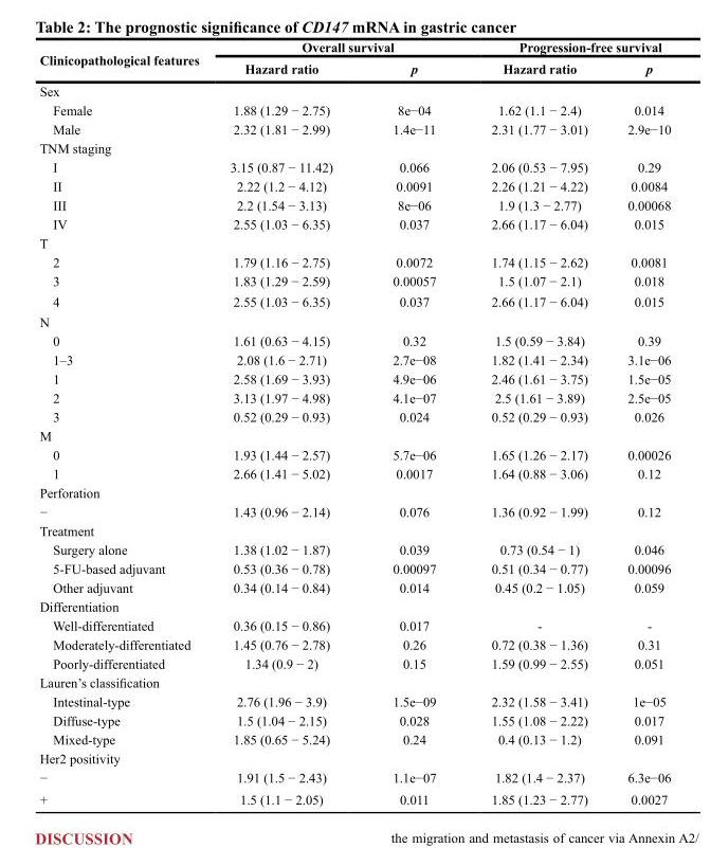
<table><thead><tr><td rowspan="2">Clinicopathological features</td><td colspan="2">Overall survival</td><td colspan="2">Progression-free survival</td></tr><tr><td>Hazard ratio</td><td>p</td><td>Hazard ratio</td><td>p</td></tr></thead><tbody><tr><td colspan="5">Sex</td></tr><tr><td>Female</td><td>1.88 (1.29 − 2.75)</td><td>8e−04</td><td>1.62 (1.1 − 2.4)</td><td>0.014</td></tr><tr><td>Male</td><td>2.32 (1.81 − 2.99)</td><td>1.4e−11</td><td>2.31 (1.77 − 3.01)</td><td>2.9e−10</td></tr><tr><td colspan="5">TNM staging</td></tr><tr><td>I</td><td>3.15 (0.87 − 11.42)</td><td>0.066</td><td>2.06 (0.53 − 7.95)</td><td>0.29</td></tr><tr><td>II</td><td>2.22 (1.2 − 4.12)</td><td>0.0091</td><td>2.26 (1.21 − 4.22)</td><td>0.0084</td></tr><tr><td>III</td><td>2.2 (1.54 − 3.13)</td><td>8e−06</td><td>1.9 (1.3 − 2.77)</td><td>0.00068</td></tr><tr><td>IV</td><td>2.55 (1.03 − 6.35)</td><td>0.037</td><td>2.66 (1.17 − 6.04)</td><td>0.015</td></tr><tr><td colspan="5">T</td></tr><tr><td>2</td><td>1.79 (1.16 − 2.75)</td><td>0.0072</td><td>1.74 (1.15 − 2.62)</td><td>0.0081</td></tr><tr><td>3</td><td>1.83 (1.29 − 2.59)</td><td>0.00057</td><td>1.5 (1.07 − 2.1)</td><td>0.018</td></tr><tr><td>4</td><td>2.55 (1.03 − 6.35)</td><td>0.037</td><td>2.66 (1.17 − 6.04)</td><td>0.015</td></tr><tr><td colspan="5">N</td></tr><tr><td>0</td><td>1.61 (0.63 − 4.15)</td><td>0.32</td><td>1.5 (0.59 − 3.84)</td><td>0.39</td></tr><tr><td>1–3</td><td>2.08 (1.6 − 2.71)</td><td>2.7e−08</td><td>1.82 (1.41 − 2.34)</td><td>3.1e−06</td></tr><tr><td>1</td><td>2.58 (1.69 − 3.93)</td><td>4.9e−06</td><td>2.46 (1.61 − 3.75)</td><td>1.5e−05</td></tr><tr><td>2</td><td>3.13 (1.97 − 4.98)</td><td>4.1e−07</td><td>2.5 (1.61 − 3.89)</td><td>2.5e−05</td></tr><tr><td>3</td><td>0.52 (0.29 − 0.93)</td><td>0.024</td><td>0.52 (0.29 − 0.93)</td><td>0.026</td></tr><tr><td colspan="5">M</td></tr><tr><td>0</td><td>1.93 (1.44 − 2.57)</td><td>5.7e−06</td><td>1.65 (1.26 − 2.17)</td><td>0.00026</td></tr><tr><td>1</td><td>2.66 (1.41 − 5.02)</td><td>0.0017</td><td>1.64 (0.88 − 3.06)</td><td>0.12</td></tr><tr><td colspan="5">Perforation</td></tr><tr><td>−</td><td>1.43 (0.96 − 2.14)</td><td>0.076</td><td>1.36 (0.92 − 1.99)</td><td>0.12</td></tr><tr><td colspan="5">Treatment</td></tr><tr><td>Surgery alone</td><td>1.38 (1.02 − 1.87)</td><td>0.039</td><td>0.73 (0.54 − 1)</td><td>0.046</td></tr><tr><td>5-FU-based adjuvant</td><td>0.53 (0.36 − 0.78)</td><td>0.00097</td><td>0.51 (0.34 − 0.77)</td><td>0.00096</td></tr><tr><td>Other adjuvant</td><td>0.34 (0.14 − 0.84)</td><td>0.014</td><td>0.45 (0.2 − 1.05)</td><td>0.059</td></tr><tr><td colspan="5">Differentiation</td></tr><tr><td>Well-differentiated</td><td>0.36 (0.15 − 0.86)</td><td>0.017</td><td>-</td><td>-</td></tr><tr><td>Moderately-differentiated</td><td>1.45 (0.76 − 2.78)</td><td>0.26</td><td>0.72 (0.38 − 1.36)</td><td>0.31</td></tr><tr><td>Poorly-differentiated</td><td>1.34 (0.9 − 2)</td><td>0.15</td><td>1.59 (0.99 − 2.55)</td><td>0.051</td></tr><tr><td colspan="5">Lauren’s classification</td></tr><tr><td>Intestinal-type</td><td>2.76 (1.96 − 3.9)</td><td>1.5e−09</td><td>2.32 (1.58 − 3.41)</td><td>1e−05</td></tr><tr><td>Diffuse-type</td><td>1.5 (1.04 − 2.15)</td><td>0.028</td><td>1.55 (1.08 − 2.22)</td><td>0.017</td></tr><tr><td>Mixed-type</td><td>1.85 (0.65 − 5.24)</td><td>0.24</td><td>0.4 (0.13 − 1.2)</td><td>0.091</td></tr><tr><td colspan="5">Her2 positivity</td></tr><tr><td>−</td><td>1.91 (1.5 − 2.43)</td><td>1.1e−07</td><td>1.82 (1.4 − 2.37)</td><td>6.3e−06</td></tr><tr><td>+</td><td>1.5 (1.1 − 2.05)</td><td>0.011</td><td>1.85 (1.23 − 2.77)</td><td>0.0027</td></tr></tbody></table>